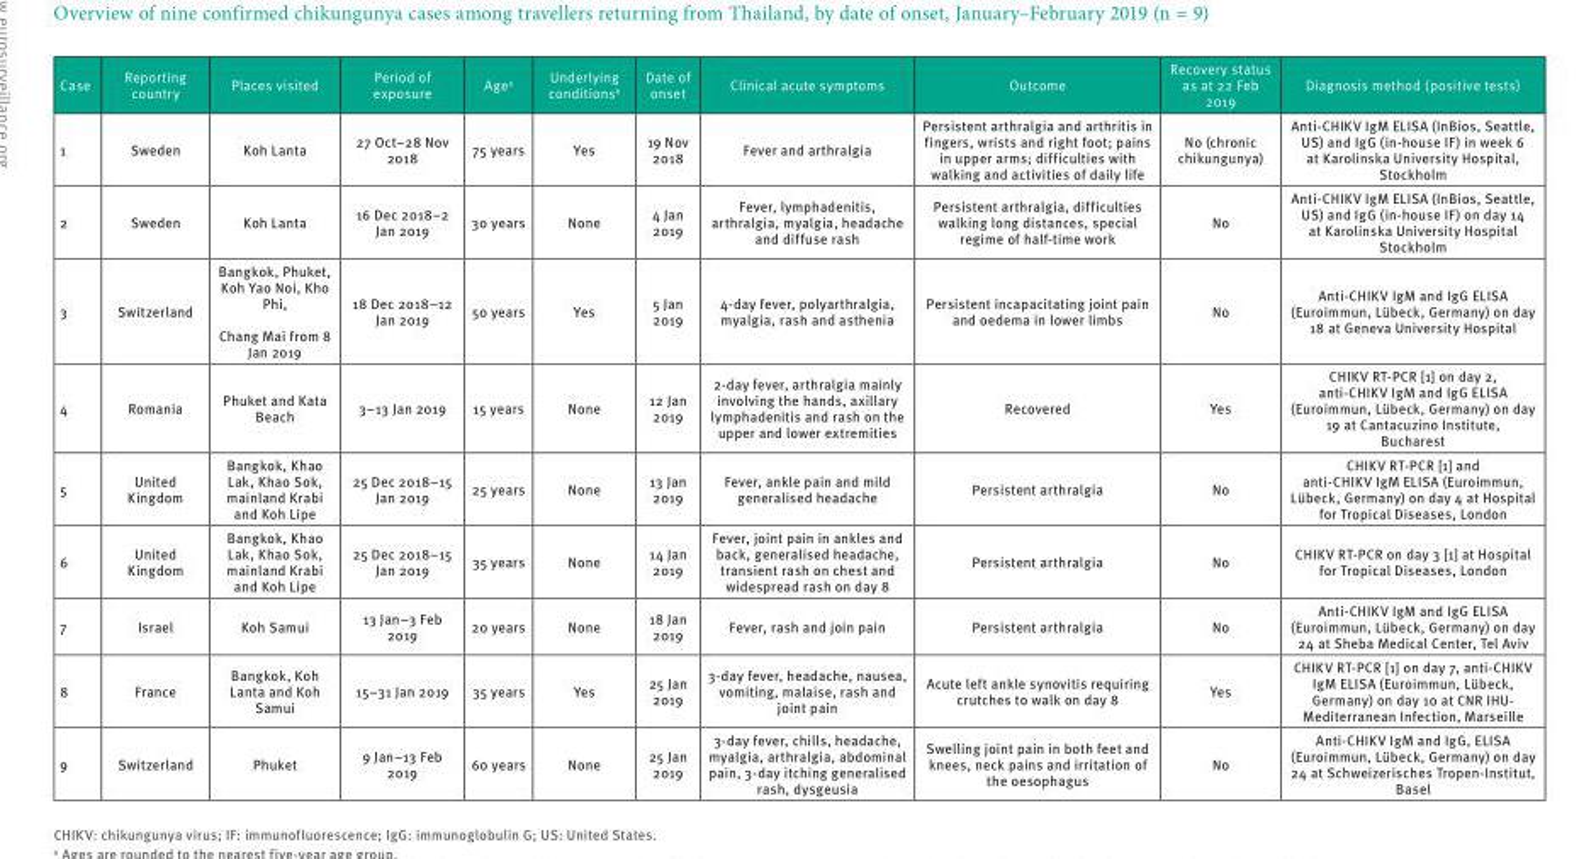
<table><thead><tr><td>Case</td><td>Reporting country</td><td>Places visited</td><td>Period of exposure</td><td>Age<sup>a</sup></td><td>Underlying conditions<sup>b</sup></td><td>Date of onset</td><td>Clinical acute symptoms</td><td>Outcome</td><td>Recovery status as at 22 Feb 2019</td><td>Diagnosis method (positive tests)</td></tr></thead><tbody><tr><td>1</td><td>Sweden</td><td>Koh Lanta</td><td>27 Oct–28 Nov 2018</td><td>75 years</td><td>Yes</td><td>19 Nov 2018</td><td>Fever and arthralgia</td><td>Persistent arthralgia and arthritis in fingers, wrists and right foot; pains in upper arms; difficulties with walking and activities of daily life</td><td>No (chronic chikungunya)</td><td>Anti-CHIKV IgM ELISA (InBios, Seattle, US) and IgG (in-house IF) in week 6 at Karolinska University Hospital, Stockholm</td></tr><tr><td>2</td><td>Sweden</td><td>Koh Lanta</td><td>16 Dec 2018–2 Jan 2019</td><td>30 years</td><td>None</td><td>4 Jan 2019</td><td>Fever, lymphadenitis, arthralgia, myalgia, headache and diffuse rash</td><td>Persistent arthralgia, difficulties walking long distances, special regime of half-time work</td><td>No</td><td>Anti-CHIKV IgM ELISA (InBios, Seattle, US) and IgG (in-house IF) on day 14 at Karolinska University Hospital Stockholm</td></tr><tr><td>3</td><td>Switzerland</td><td>Bangkok, Phuket, Koh Yao Noi, Kho Phi, Chang Mai from 8 Jan 2019</td><td>18 Dec 2018–12 Jan 2019</td><td>50 years</td><td>Yes</td><td>5 Jan 2019</td><td>4-day fever, polyarthralgia, myalgia, rash and asthenia</td><td>Persistent incapacitating joint pain and oedema in lower limbs</td><td>No</td><td>Anti-CHIKV IgM and IgG ELISA (Euroimmun, Lübeck, Germany) on day 18 at Geneva University Hospital</td></tr><tr><td>4</td><td>Romania</td><td>Phuket and Kata Beach</td><td>3–13 Jan 2019</td><td>15 years</td><td>None</td><td>12 Jan 2019</td><td>2-day fever, arthralgia mainly involving the hands, axillary lymphadenitis and rash on the upper and lower extremities</td><td>Recovered</td><td>Yes</td><td>CHIKV RT-PCR [1] on day 2, anti-CHIKV IgM and IgG ELISA (Euroimmun, Lübeck, Germany) on day 19 at Cantacuzino Institute, Bucharest</td></tr><tr><td>5</td><td>United Kingdom</td><td>Bangkok, Khao Lak, Khao Sok, mainland Krabi and Koh Lipe</td><td>25 Dec 2018–15 Jan 2019</td><td>25 years</td><td>None</td><td>13 Jan 2019</td><td>Fever, ankle pain and mild generalised headache</td><td>Persistent arthralgia</td><td>No</td><td>CHIKV RT-PCR [1] and anti-CHIKV IgM ELISA (Euroimmun, Lübeck, Germany) on day 4 at Hospital for Tropical Diseases, London</td></tr><tr><td>6</td><td>United Kingdom</td><td>Bangkok, Khao Lak, Khao Sok, mainland Krabi and Koh Lipe</td><td>25 Dec 2018–15 Jan 2019</td><td>35 years</td><td>None</td><td>14 Jan 2019</td><td>Fever, joint pain in ankles and back, generalised headache, transient rash on chest and widespread rash on day 8</td><td>Persistent arthralgia</td><td>No</td><td>CHIKV RT-PCR on day 3 [1] at Hospital for Tropical Diseases, London</td></tr><tr><td>7</td><td>Israel</td><td>Koh Samui</td><td>13 Jan–3 Feb 2019</td><td>20 years</td><td>None</td><td>18 Jan 2019</td><td>Fever, rash and join pain</td><td>Persistent arthralgia</td><td>No</td><td>Anti-CHIKV IgM and IgG ELISA (Euroimmun, Lübeck, Germany) on day 24 at Sheba Medical Center, Tel Aviv</td></tr><tr><td>8</td><td>France</td><td>Bangkok, Koh Lanta and Koh Samui</td><td>15–31 Jan 2019</td><td>35 years</td><td>Yes</td><td>25 Jan 2019</td><td>3-day fever, headache, nausea, vomiting, malaise, rash and joint pain</td><td>Acute left ankle synovitis requiring crutches to walk on day 8</td><td>Yes</td><td>CHIKV RT-PCR [1] on day 7, anti-CHIKV IgM ELISA (Euroimmun, Lübeck, Germany) on day 10 at CNR IHU- Mediterranean Infection, Marseille</td></tr><tr><td>9</td><td>Switzerland</td><td>Phuket</td><td>9 Jan–13 Feb 2019</td><td>60 years</td><td>None</td><td>25 Jan 2019</td><td>3-day fever, chills, headache, myalgia, arthralgia, abdominal pain, 3-day itching generalised rash, dysgeusia</td><td>Swelling joint pain in both feet and knees, neck pains and irritation of the oesophagus</td><td>No</td><td>Anti-CHIKV IgM and IgG, ELISA (Euroimmun, Lübeck, Germany) on day 24 at Schweizerisches Tropen-Institut, Basel</td></tr></tbody></table>